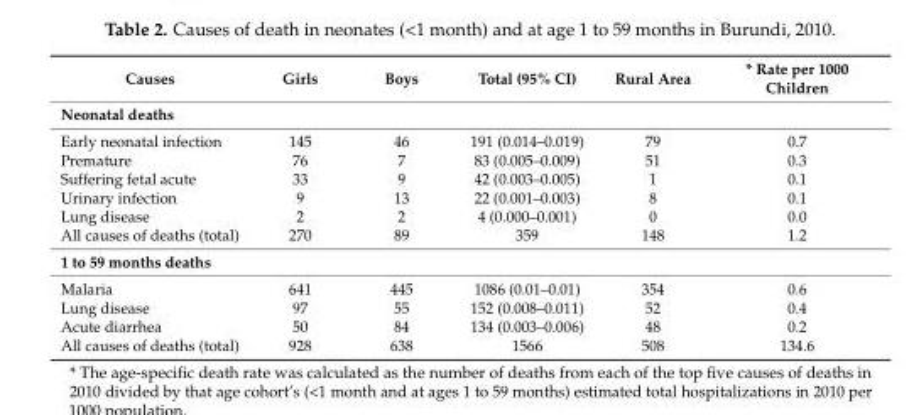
<table><thead><tr><td>Causes</td><td>Girls</td><td>Boys</td><td>Total (95% CI)</td><td>Rural Area</td><td>* Rate per 1000 Children</td></tr></thead><tbody><tr><td colspan="6">Neonatal deaths</td></tr><tr><td>Early neonatal infection</td><td>145</td><td>46</td><td>191 (0.014–0.019)</td><td>79</td><td>0.7</td></tr><tr><td>Premature</td><td>76</td><td>7</td><td>83 (0.005–0.009)</td><td>51</td><td>0.3</td></tr><tr><td>Suffering fetal acute</td><td>33</td><td>9</td><td>42 (0.003–0.005)</td><td>1</td><td>0.1</td></tr><tr><td>Urinary infection</td><td>9</td><td>13</td><td>22 (0.001–0.003)</td><td>8</td><td>0.1</td></tr><tr><td>Lung disease</td><td>2</td><td>2</td><td>4 (0.000–0.001)</td><td>0</td><td>0.0</td></tr><tr><td>All causes of deaths (total)</td><td>270</td><td>89</td><td>359</td><td>148</td><td>1.2</td></tr><tr><td colspan="6">1 to 59 months deaths</td></tr><tr><td>Malaria</td><td>641</td><td>445</td><td>1086 (0.01–0.01)</td><td>354</td><td>0.6</td></tr><tr><td>Lung disease</td><td>97</td><td>55</td><td>152 (0.008–0.011)</td><td>52</td><td>0.4</td></tr><tr><td>Acute diarrhea</td><td>50</td><td>84</td><td>134 (0.003–0.006)</td><td>48</td><td>0.2</td></tr><tr><td>All causes of deaths (total)</td><td>928</td><td>638</td><td>1566</td><td>508</td><td>134.6</td></tr></tbody></table>